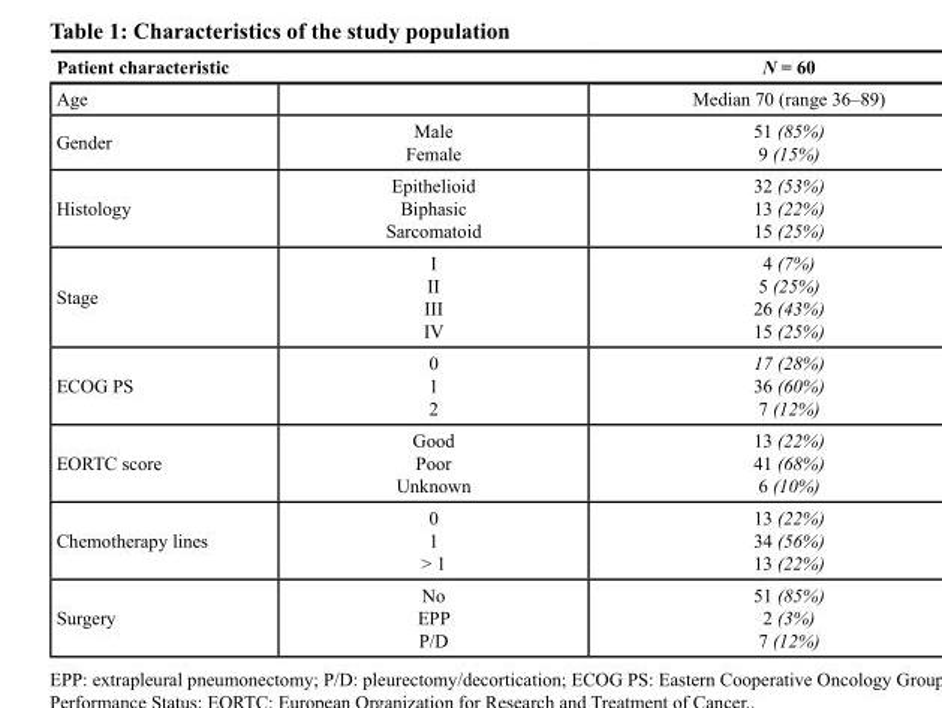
<table><thead><tr><td>Patient characteristic</td><td></td><td>N = 60</td></tr></thead><tbody><tr><td>Age</td><td></td><td>Median 70 (range 36–89)</td></tr><tr><td>Gender</td><td>Male Female</td><td>51 (85%) 9 (15%)</td></tr><tr><td>Histology</td><td>Epithelioid Biphasic Sarcomatoid</td><td>32 (53%) 13 (22%) 15 (25%)</td></tr><tr><td>Stage</td><td>I II III IV</td><td>4 (7%) 5 (25%) 26 (43%) 15 (25%)</td></tr><tr><td>ECOG PS</td><td>0 1 2</td><td>17 (28%) 36 (60%) 7 (12%)</td></tr><tr><td>EORTC score</td><td>Good Poor Unknown</td><td>13 (22%) 41 (68%) 6 (10%)</td></tr><tr><td>Chemotherapy lines</td><td>0 1 &gt; 1</td><td>13 (22%) 34 (56%) 13 (22%)</td></tr><tr><td>Surgery</td><td>No EPP P/D</td><td>51 (85%) 2 (3%) 7 (12%)</td></tr></tbody></table>